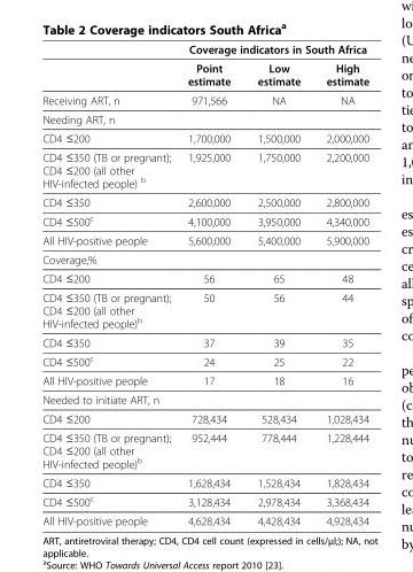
<table><thead><tr><td rowspan="2"></td><td colspan="3">Coverage indicators in South Africa</td></tr><tr><td>Point estimate</td><td>Low estimate</td><td>High estimate</td></tr></thead><tbody><tr><td>Receiving ART, n</td><td>971,566</td><td>NA</td><td>NA</td></tr><tr><td colspan="4">Needing ART, n</td></tr><tr><td>CD4 ≤200</td><td>1,700,000</td><td>1,500,000</td><td>2,000,000</td></tr><tr><td>CD4 ≤350 (TB or pregnant); CD4 ≤200 (all other HIV-infected people) <sup>b</sup></td><td>1,925,000</td><td>1,750,000</td><td>2,200,000</td></tr><tr><td>CD4 ≤350</td><td>2,600,000</td><td>2,500,000</td><td>2,800,000</td></tr><tr><td>CD4 ≤500<sup>c</sup></td><td>4,100,000</td><td>3,950,000</td><td>4,340,000</td></tr><tr><td>All HIV-positive people</td><td>5,600,000</td><td>5,400,000</td><td>5,900,000</td></tr><tr><td colspan="4">Coverage,%</td></tr><tr><td>CD4 ≤200</td><td>56</td><td>65</td><td>48</td></tr><tr><td>CD4 ≤350 (TB or pregnant); CD4 ≤200 (all other HIV-infected people)<sup>b</sup></td><td>50</td><td>56</td><td>44</td></tr><tr><td>CD4 ≤350</td><td>37</td><td>39</td><td>35</td></tr><tr><td>CD4 ≤500<sup>c</sup></td><td>24</td><td>25</td><td>22</td></tr><tr><td>All HIV-positive people</td><td>17</td><td>18</td><td>16</td></tr><tr><td colspan="4">Needed to initiate ART, n</td></tr><tr><td>CD4 ≤200</td><td>728,434</td><td>528,434</td><td>1,028,434</td></tr><tr><td>CD4 ≤350 (TB or pregnant); CD4 ≤200 (all other HIV-infected people)<sup>b</sup></td><td>952,444</td><td>778,444</td><td>1,228,444</td></tr><tr><td>CD4 ≤350</td><td>1,628,434</td><td>1,528,434</td><td>1,828,434</td></tr><tr><td>CD4 ≤500<sup>c</sup></td><td>3,128,434</td><td>2,978,434</td><td>3,368,434</td></tr><tr><td>All HIV-positive people</td><td>4,628,434</td><td>4,428,434</td><td>4,928,434</td></tr></tbody></table>